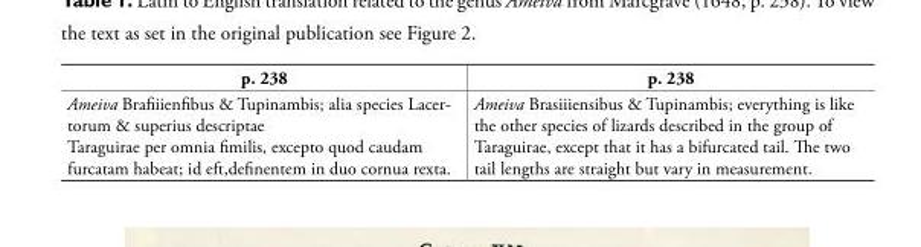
<table><tbody><tr><td>p. 238</td><td>p. 238</td></tr><tr><td>Ameiva Brafiiienfibus &amp; Tupinambis; alia species Lacer- torum &amp; superius descriptae Taraguirae per omnia fimilis, excepto quod caudam furcatam habeat; id eft,definentem in duo cornua rexta.</td><td>Ameiva Brasiiiensibus &amp; Tupinambis; everything is like the other species of lizards described in the group of Taraguirae, except that it has a bifurcated tail. The two tail lengths are straight but vary in measurement.</td></tr></tbody></table>